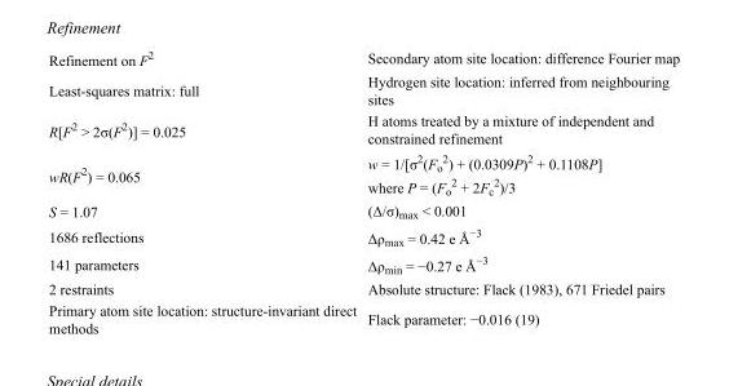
<table><tbody><tr><td>Refinement on F<sup>2</sup></td><td>Secondary atom site location: difference Fourier map</td></tr><tr><td>Least-squares matrix: full</td><td>Hydrogen site location: inferred from neighbouring sites</td></tr><tr><td>R[F<sup>2</sup> &gt; 2σ(F<sup>2</sup>)] = 0.025</td><td>H atoms treated by a mixture of independent and constrained refinement</td></tr><tr><td>wR(F<sup>2</sup>) = 0.065</td><td>w = 1/[σ<sup>2</sup>(F<sub>o</sub> <sup>2</sup>) + (0.0309P)<sup>2</sup> + 0.1108P] where P = (F<sub>o</sub> <sup>2</sup> + 2F<sub>c</sub> <sup>2</sup>)/3</td></tr><tr><td>S = 1.07</td><td>(Δ/σ)<sub>max</sub> &lt; 0.001</td></tr><tr><td>1686 reflections</td><td>Δρ<sub>max</sub> = 0.42 e Å<sup>−3</sup></td></tr><tr><td>141 parameters</td><td>Δρ<sub>min</sub> = −0.27 e Å<sup>−3</sup></td></tr><tr><td>2 restraints</td><td>Absolute structure: Flack (1983), 671 Friedel pairs</td></tr><tr><td>Primary atom site location: structure-invariant direct methods</td><td>Flack parameter: −0.016 (19)</td></tr></tbody></table>